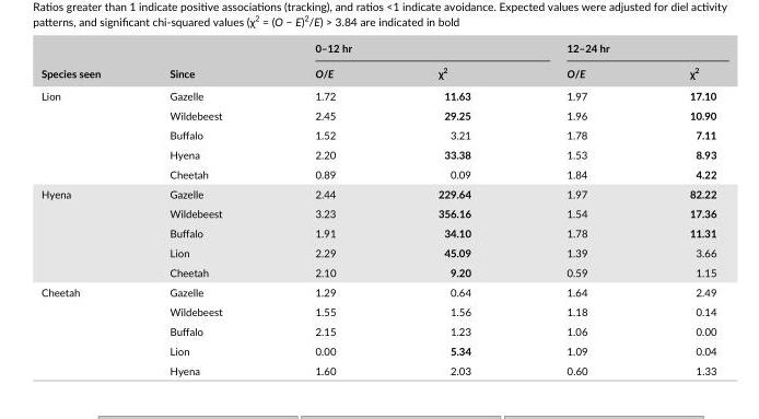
<table><thead><tr><td rowspan="2">Species seen</td><td rowspan="2">Since</td><td colspan="2">0–12 hr</td><td colspan="2">12–24 hr</td></tr><tr><td>O/E</td><td>χ<sup>2</sup></td><td>O/E</td><td>χ<sup>2</sup></td></tr></thead><tbody><tr><td rowspan="5">Lion</td><td>Gazelle</td><td>1.72</td><td>11.63</td><td>1.97</td><td>17.10</td></tr><tr><td>Wildebeest</td><td>2.45</td><td>29.25</td><td>1.96</td><td>10.90</td></tr><tr><td>Buffalo</td><td>1.52</td><td>3.21</td><td>1.78</td><td>7.11</td></tr><tr><td>Hyena</td><td>2.20</td><td>33.38</td><td>1.53</td><td>8.93</td></tr><tr><td>Cheetah</td><td>0.89</td><td>0.09</td><td>1.84</td><td>4.22</td></tr><tr><td rowspan="5">Hyena</td><td>Gazelle</td><td>2.44</td><td>229.64</td><td>1.97</td><td>82.22</td></tr><tr><td>Wildebeest</td><td>3.23</td><td>356.16</td><td>1.54</td><td>17.36</td></tr><tr><td>Buffalo</td><td>1.91</td><td>34.10</td><td>1.78</td><td>11.31</td></tr><tr><td>Lion</td><td>2.29</td><td>45.09</td><td>1.39</td><td>3.66</td></tr><tr><td>Cheetah</td><td>2.10</td><td>9.20</td><td>0.59</td><td>1.15</td></tr><tr><td rowspan="5">Cheetah</td><td>Gazelle</td><td>1.29</td><td>0.64</td><td>1.64</td><td>2.49</td></tr><tr><td>Wildebeest</td><td>1.55</td><td>1.56</td><td>1.18</td><td>0.14</td></tr><tr><td>Buffalo</td><td>2.15</td><td>1.23</td><td>1.06</td><td>0.00</td></tr><tr><td>Lion</td><td>0.00</td><td>5.34</td><td>1.09</td><td>0.04</td></tr><tr><td>Hyena</td><td>1.60</td><td>2.03</td><td>0.60</td><td>1.33</td></tr></tbody></table>